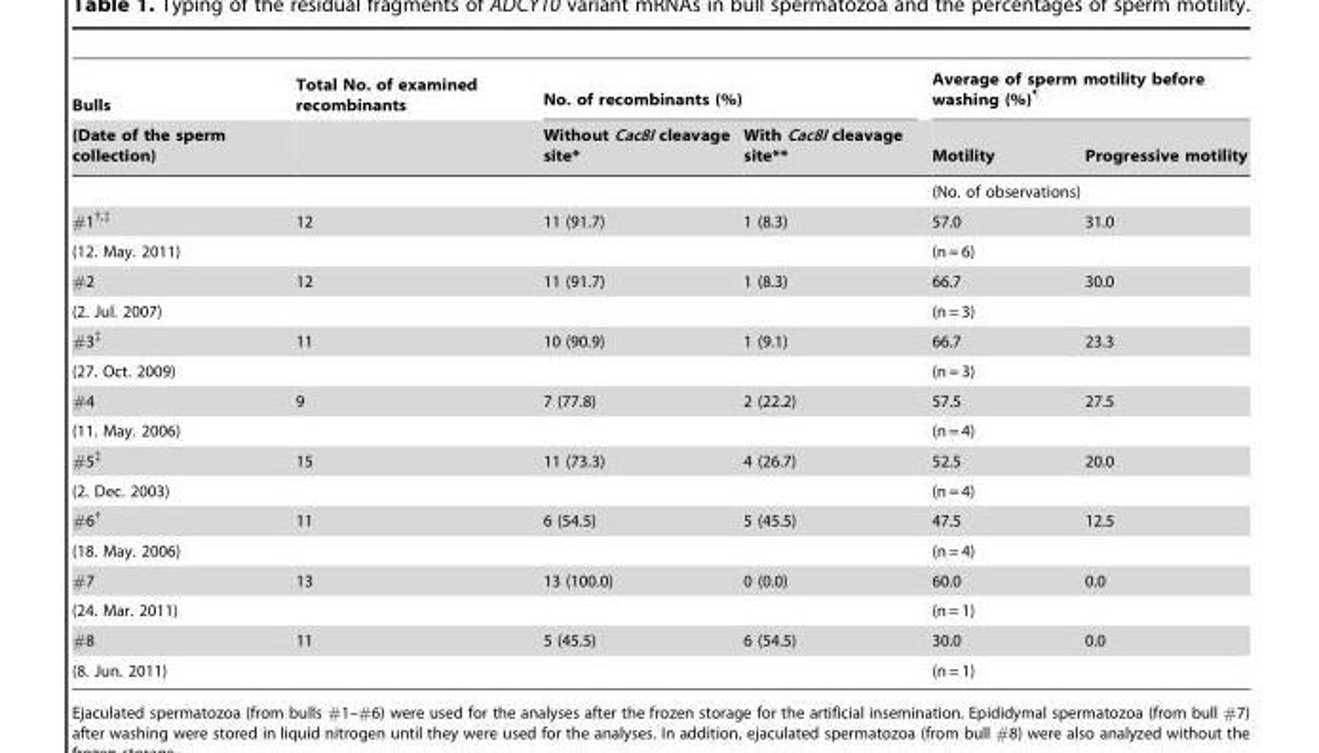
<table><thead><tr><td rowspan="2">Bulls (Date of the sperm collection)</td><td rowspan="2">Total No. of examined recombinants</td><td colspan="2">No. of recombinants (%)</td><td colspan="2">Average of sperm motility before washing (%)¶</td></tr><tr><td>Without Cac8I cleavage site*</td><td>With Cac8I cleavage site**</td><td>Motility</td><td>Progressive motility</td></tr></thead><tbody><tr><td></td><td></td><td></td><td></td><td colspan="2">(No. of observations)</td></tr><tr><td>#1†,‡</td><td>12</td><td>11 (91.7)</td><td>1 (8.3)</td><td>57.0</td><td>31.0</td></tr><tr><td>(12. May. 2011)</td><td></td><td></td><td></td><td colspan="2">(n = 6)</td></tr><tr><td>#2</td><td>12</td><td>11 (91.7)</td><td>1 (8.3)</td><td>66.7</td><td>30.0</td></tr><tr><td>(2. Jul. 2007)</td><td></td><td></td><td></td><td colspan="2">(n = 3)</td></tr><tr><td>#3‡</td><td>11</td><td>10 (90.9)</td><td>1 (9.1)</td><td>66.7</td><td>23.3</td></tr><tr><td>(27. Oct. 2009)</td><td></td><td></td><td></td><td colspan="2">(n = 3)</td></tr><tr><td>#4</td><td>9</td><td>7 (77.8)</td><td>2 (22.2)</td><td>57.5</td><td>27.5</td></tr><tr><td>(11. May. 2006)</td><td></td><td></td><td></td><td colspan="2">(n = 4)</td></tr><tr><td>#5‡</td><td>15</td><td>11 (73.3)</td><td>4 (26.7)</td><td>52.5</td><td>20.0</td></tr><tr><td>(2. Dec. 2003)</td><td></td><td></td><td></td><td colspan="2">(n = 4)</td></tr><tr><td>#6†</td><td>11</td><td>6 (54.5)</td><td>5 (45.5)</td><td>47.5</td><td>12.5</td></tr><tr><td>(18. May. 2006)</td><td></td><td></td><td></td><td colspan="2">(n = 4)</td></tr><tr><td>#7</td><td>13</td><td>13 (100.0)</td><td>0 (0.0)</td><td>60.0</td><td>0.0</td></tr><tr><td>(24. Mar. 2011)</td><td></td><td></td><td></td><td colspan="2">(n = 1)</td></tr><tr><td>#8</td><td>11</td><td>5 (45.5)</td><td>6 (54.5)</td><td>30.0</td><td>0.0</td></tr><tr><td>(8. Jun. 2011)</td><td></td><td></td><td></td><td colspan="2">(n = 1)</td></tr></tbody></table>